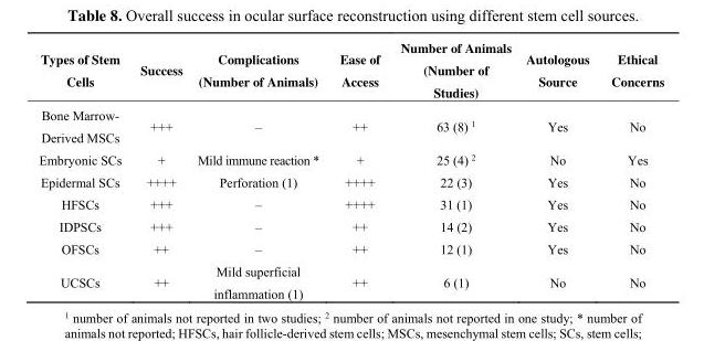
<table><thead><tr><td>Types of Stem Cells</td><td>Success</td><td>Complications (Number of Animals)</td><td>Ease of Access</td><td>Number of Animals (Number of Studies)</td><td>Autologous Source</td><td>Ethical Concerns</td></tr></thead><tbody><tr><td>Bone Marrow- Derived MSCs</td><td>+++</td><td>–</td><td>++</td><td>63 (8) <sup>1</sup></td><td>Yes</td><td>No</td></tr><tr><td>Embryonic SCs</td><td>+</td><td>Mild immune reaction *</td><td>+</td><td>25 (4) <sup>2</sup></td><td>No</td><td>Yes</td></tr><tr><td>Epidermal SCs</td><td>++++</td><td>Perforation (1)</td><td>++++</td><td>22 (3)</td><td>Yes</td><td>No</td></tr><tr><td>HFSCs</td><td>+++</td><td>–</td><td>++++</td><td>31 (1)</td><td>Yes</td><td>No</td></tr><tr><td>IDPSCs</td><td>+++</td><td>–</td><td>++</td><td>14 (2)</td><td>Yes</td><td>No</td></tr><tr><td>OFSCs</td><td>++</td><td>–</td><td>++</td><td>12 (1)</td><td>Yes</td><td>No</td></tr><tr><td>UCSCs</td><td>++</td><td>Mild superficial inflammation (1)</td><td>++</td><td>6 (1)</td><td>No</td><td>No</td></tr></tbody></table>